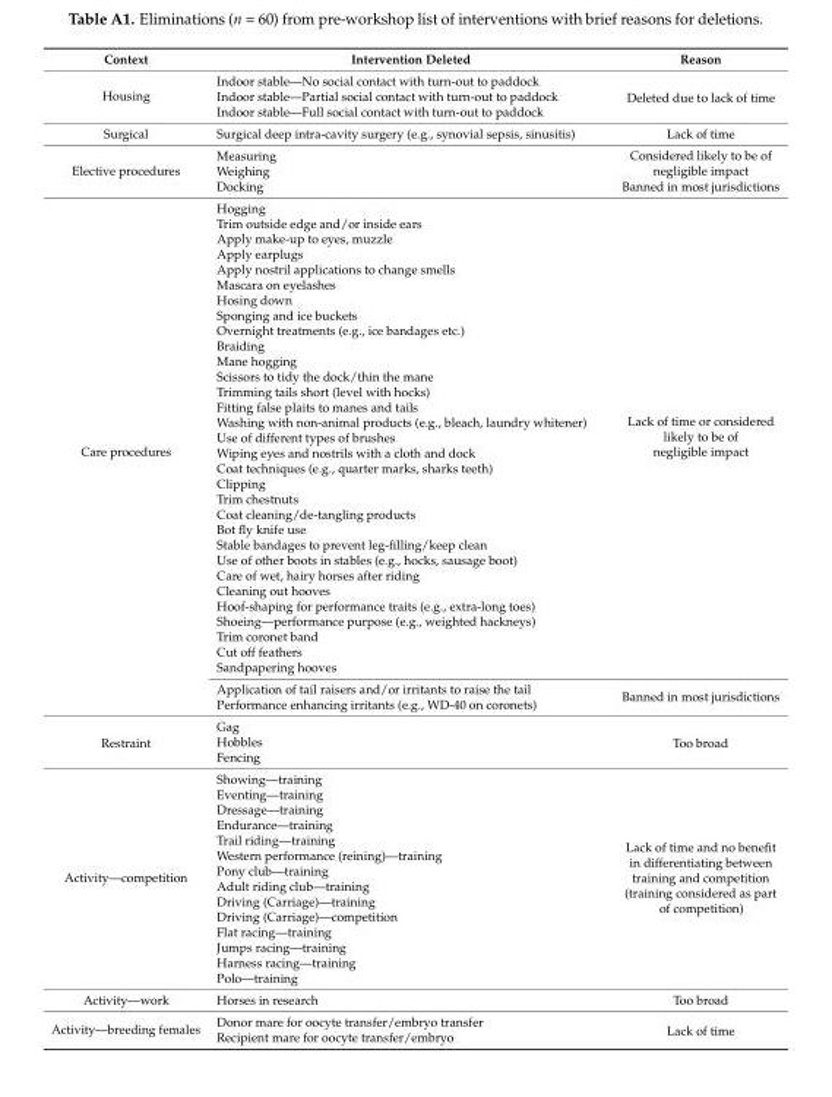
<table><thead><tr><td>Context</td><td>Intervention Deleted</td><td>Reason</td></tr></thead><tbody><tr><td rowspan="3">Housing</td><td>Indoor stable—No social contact with turn-out to paddock</td><td rowspan="3">Deleted due to lack of time</td></tr><tr><td>Indoor stable—Partial social contact with turn-out to paddock</td></tr><tr><td>Indoor stable—Full social contact with turn-out to paddock</td></tr><tr><td>Surgical</td><td>Surgical deep intra-cavity surgery (e.g., synovial sepsis, sinusitis)</td><td>Lack of time</td></tr><tr><td rowspan="3">Elective procedures</td><td>Measuring</td><td rowspan="2">Considered likely to be of negligible impact</td></tr><tr><td>Weighing</td></tr><tr><td>Docking</td><td>Banned in most jurisdictions</td></tr><tr><td rowspan="33">Care procedures</td><td>Hogging</td><td rowspan="31">Lack of time or considered likely to be of negligible impact</td></tr><tr><td>Trim outside edge and/or inside ears</td></tr><tr><td>Apply make-up to eyes, muzzle</td></tr><tr><td>Apply earplugs</td></tr><tr><td>Apply nostril applications to change smells</td></tr><tr><td>Mascara on eyelashes</td></tr><tr><td>Hosing down</td></tr><tr><td>Sponging and ice buckets</td></tr><tr><td>Overnight treatments (e.g., ice bandages etc.)</td></tr><tr><td>Braiding</td></tr><tr><td>Mane hogging</td></tr><tr><td>Scissors to tidy the dock/thin the mane</td></tr><tr><td>Trimming tails short (level with hocks)</td></tr><tr><td>Fitting false plaits to manes and tails</td></tr><tr><td>Washing with non-animal products (e.g., bleach, laundry whitener)</td></tr><tr><td>Use of different types of brushes</td></tr><tr><td>Wiping eyes and nostrils with a cloth and dock</td></tr><tr><td>Coat techniques (e.g., quarter marks, sharks teeth)</td></tr><tr><td>Clipping</td></tr><tr><td>Trim chestnuts</td></tr><tr><td>Coat cleaning/de-tangling products</td></tr><tr><td>Bot fly knife use</td></tr><tr><td>Stable bandages to prevent leg-filling/keep clean</td></tr><tr><td>Use of other boots in stables (e.g., hocks, sausage boot)</td></tr><tr><td>Care of wet, hairy horses after riding</td></tr><tr><td>Cleaning out hooves</td></tr><tr><td>Hoof-shaping for performance traits (e.g., extra-long toes)</td></tr><tr><td>Shoeing—performance purpose (e.g., weighted hackneys)</td></tr><tr><td>Trim coronet band</td></tr><tr><td>Cut off feathers</td></tr><tr><td>Sandpapering hooves</td></tr><tr><td>Application of tail raisers and/or irritants to raise the tail</td><td rowspan="2">Banned in most jurisdictions</td></tr><tr><td>Performance enhancing irritants (e.g., WD-40 on coronets)</td></tr><tr><td rowspan="3">Restraint</td><td>Gag</td><td rowspan="3">Too broad</td></tr><tr><td>Hobbles</td></tr><tr><td>Fencing</td></tr><tr><td rowspan="14">Activity—competition</td><td>Showing—training</td><td rowspan="14">Lack of time and no benefit in differentiating between training and competition (training considered as part of competition)</td></tr><tr><td>Eventing—training</td></tr><tr><td>Dressage—training</td></tr><tr><td>Endurance—training</td></tr><tr><td>Trail riding—training</td></tr><tr><td>Western performance (reining)—training</td></tr><tr><td>Pony club—training</td></tr><tr><td>Adult riding club—training</td></tr><tr><td>Driving (Carriage)—training</td></tr><tr><td>Driving (Carriage)—competition</td></tr><tr><td>Flat racing—training</td></tr><tr><td>Jumps racing—training</td></tr><tr><td>Harness racing—training</td></tr><tr><td>Polo—training</td></tr><tr><td>Activity—work</td><td>Horses in research</td><td>Too broad</td></tr><tr><td rowspan="2">Activity—breeding females</td><td>Donor mare for oocyte transfer/embryo transfer</td><td rowspan="2">Lack of time</td></tr><tr><td>Recipient mare for oocyte transfer/embryo</td></tr></tbody></table>